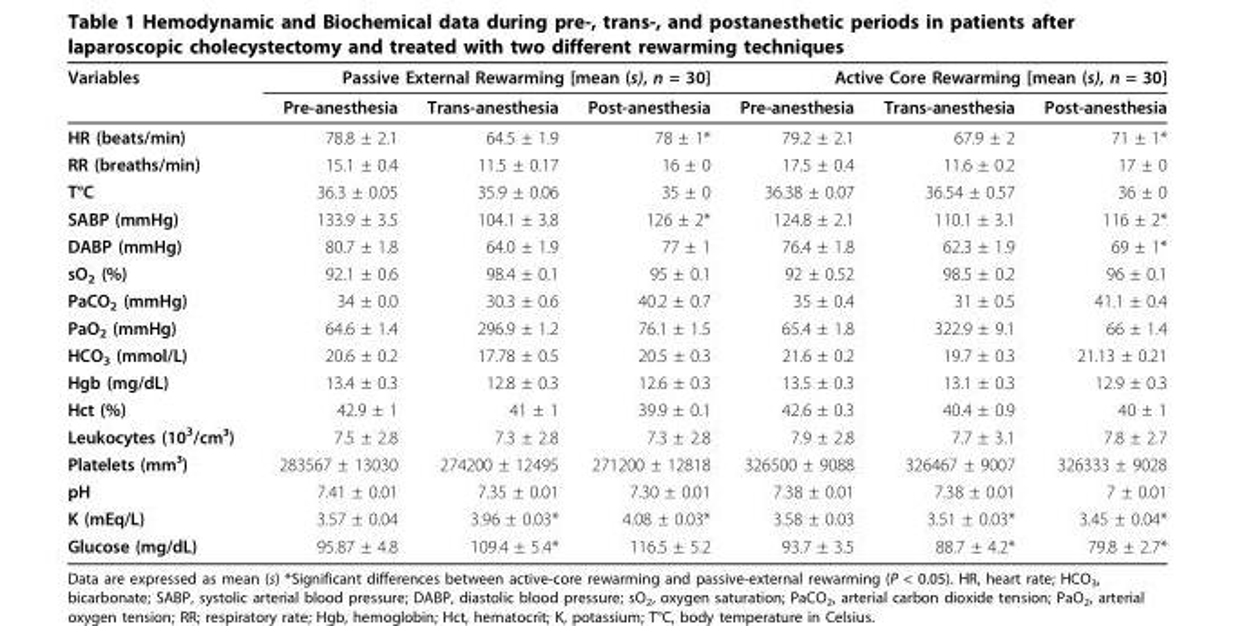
<table><thead><tr><td rowspan="2">Variables</td><td colspan="3">Passive External Rewarming [mean (s), n = 30]</td><td colspan="3">Active Core Rewarming [mean (s), n = 30]</td></tr><tr><td>Pre-anesthesia</td><td>Trans-anesthesia</td><td>Post-anesthesia</td><td>Pre-anesthesia</td><td>Trans-anesthesia</td><td>Post-anesthesia</td></tr></thead><tbody><tr><td>HR (beats/min)</td><td>78.8 ± 2.1</td><td>64.5 ± 1.9</td><td>78 ± 1*</td><td>79.2 ± 2.1</td><td>67.9 ± 2</td><td>71 ± 1*</td></tr><tr><td>RR (breaths/min)</td><td>15.1 ± 0.4</td><td>11.5 ± 0.17</td><td>16 ± 0</td><td>17.5 ± 0.4</td><td>11.6 ± 0.2</td><td>17 ± 0</td></tr><tr><td>T°C</td><td>36.3 ± 0.05</td><td>35.9 ± 0.06</td><td>35 ± 0</td><td>36.38 ± 0.07</td><td>36.54 ± 0.57</td><td>36 ± 0</td></tr><tr><td>SABP (mmHg)</td><td>133.9 ± 3.5</td><td>104.1 ± 3.8</td><td>126 ± 2*</td><td>124.8 ± 2.1</td><td>110.1 ± 3.1</td><td>116 ± 2*</td></tr><tr><td>DABP (mmHg)</td><td>80.7 ± 1.8</td><td>64.0 ± 1.9</td><td>77 ± 1</td><td>76.4 ± 1.8</td><td>62.3 ± 1.9</td><td>69 ± 1*</td></tr><tr><td>sO<sub>2</sub> (%)</td><td>92.1 ± 0.6</td><td>98.4 ± 0.1</td><td>95 ± 0.1</td><td>92 ± 0.52</td><td>98.5 ± 0.2</td><td>96 ± 0.1</td></tr><tr><td>PaCO<sub>2</sub> (mmHg)</td><td>34 ± 0.0</td><td>30.3 ± 0.6</td><td>40.2 ± 0.7</td><td>35 ± 0.4</td><td>31 ± 0.5</td><td>41.1 ± 0.4</td></tr><tr><td>PaO<sub>2</sub> (mmHg)</td><td>64.6 ± 1.4</td><td>296.9 ± 1.2</td><td>76.1 ± 1.5</td><td>65.4 ± 1.8</td><td>322.9 ± 9.1</td><td>66 ± 1.4</td></tr><tr><td>HCO<sub>3</sub> (mmol/L)</td><td>20.6 ± 0.2</td><td>17.78 ± 0.5</td><td>20.5 ± 0.3</td><td>21.6 ± 0.2</td><td>19.7 ± 0.3</td><td>21.13 ± 0.21</td></tr><tr><td>Hgb (mg/dL)</td><td>13.4 ± 0.3</td><td>12.8 ± 0.3</td><td>12.6 ± 0.3</td><td>13.5 ± 0.3</td><td>13.1 ± 0.3</td><td>12.9 ± 0.3</td></tr><tr><td>Hct (%)</td><td>42.9 ± 1</td><td>41 ± 1</td><td>39.9 ± 0.1</td><td>42.6 ± 0.3</td><td>40.4 ± 0.9</td><td>40 ± 1</td></tr><tr><td>Leukocytes (10<sup>3</sup>/cm³)</td><td>7.5 ± 2.8</td><td>7.3 ± 2.8</td><td>7.3 ± 2.8</td><td>7.9 ± 2.8</td><td>7.7 ± 3.1</td><td>7.8 ± 2.7</td></tr><tr><td>Platelets (mm³)</td><td>283567 ± 13030</td><td>274200 ± 12495</td><td>271200 ± 12818</td><td>326500 ± 9088</td><td>326467 ± 9007</td><td>326333 ± 9028</td></tr><tr><td>pH</td><td>7.41 ± 0.01</td><td>7.35 ± 0.01</td><td>7.30 ± 0.01</td><td>7.38 ± 0.01</td><td>7.38 ± 0.01</td><td>7 ± 0.01</td></tr><tr><td>K (mEq/L)</td><td>3.57 ± 0.04</td><td>3.96 ± 0.03*</td><td>4.08 ± 0.03*</td><td>3.58 ± 0.03</td><td>3.51 ± 0.03*</td><td>3.45 ± 0.04*</td></tr><tr><td>Glucose (mg/dL)</td><td>95.87 ± 4.8</td><td>109.4 ± 5.4*</td><td>116.5 ± 5.2</td><td>93.7 ± 3.5</td><td>88.7 ± 4.2*</td><td>79.8 ± 2.7*</td></tr></tbody></table>